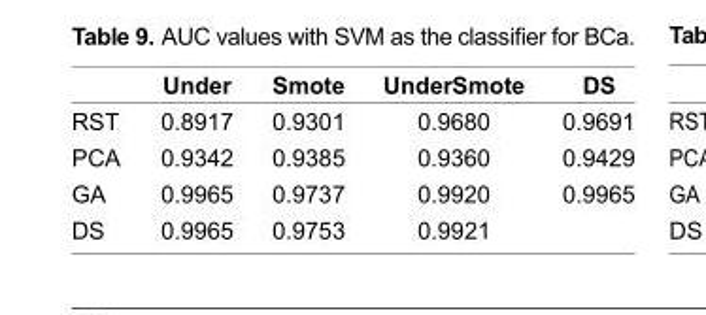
<table><thead><tr><td></td><td>Under</td><td>Smote</td><td>UnderSmote</td><td>DS</td></tr></thead><tbody><tr><td>RST</td><td>0.8917</td><td>0.9301</td><td>0.9680</td><td>0.9691</td></tr><tr><td>PCA</td><td>0.9342</td><td>0.9385</td><td>0.9360</td><td>0.9429</td></tr><tr><td>GA</td><td>0.9965</td><td>0.9737</td><td>0.9920</td><td>0.9965</td></tr><tr><td>DS</td><td>0.9965</td><td>0.9753</td><td>0.9921</td><td></td></tr></tbody></table>